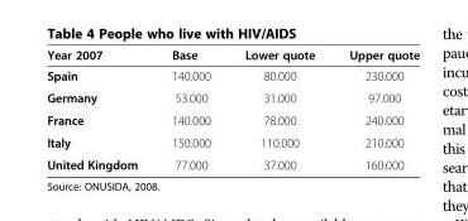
<table><thead><tr><td>Year 2007</td><td>Base</td><td>Lower quote</td><td>Upper quote</td></tr></thead><tbody><tr><td>Spain</td><td>140.000</td><td>80.000</td><td>230.000</td></tr><tr><td>Germany</td><td>53.000</td><td>31.000</td><td>97.000</td></tr><tr><td>France</td><td>140.000</td><td>78.000</td><td>240.000</td></tr><tr><td>Italy</td><td>150.000</td><td>110.000</td><td>210.000</td></tr><tr><td>United Kingdom</td><td>77.000</td><td>37.000</td><td>160.000</td></tr></tbody></table>